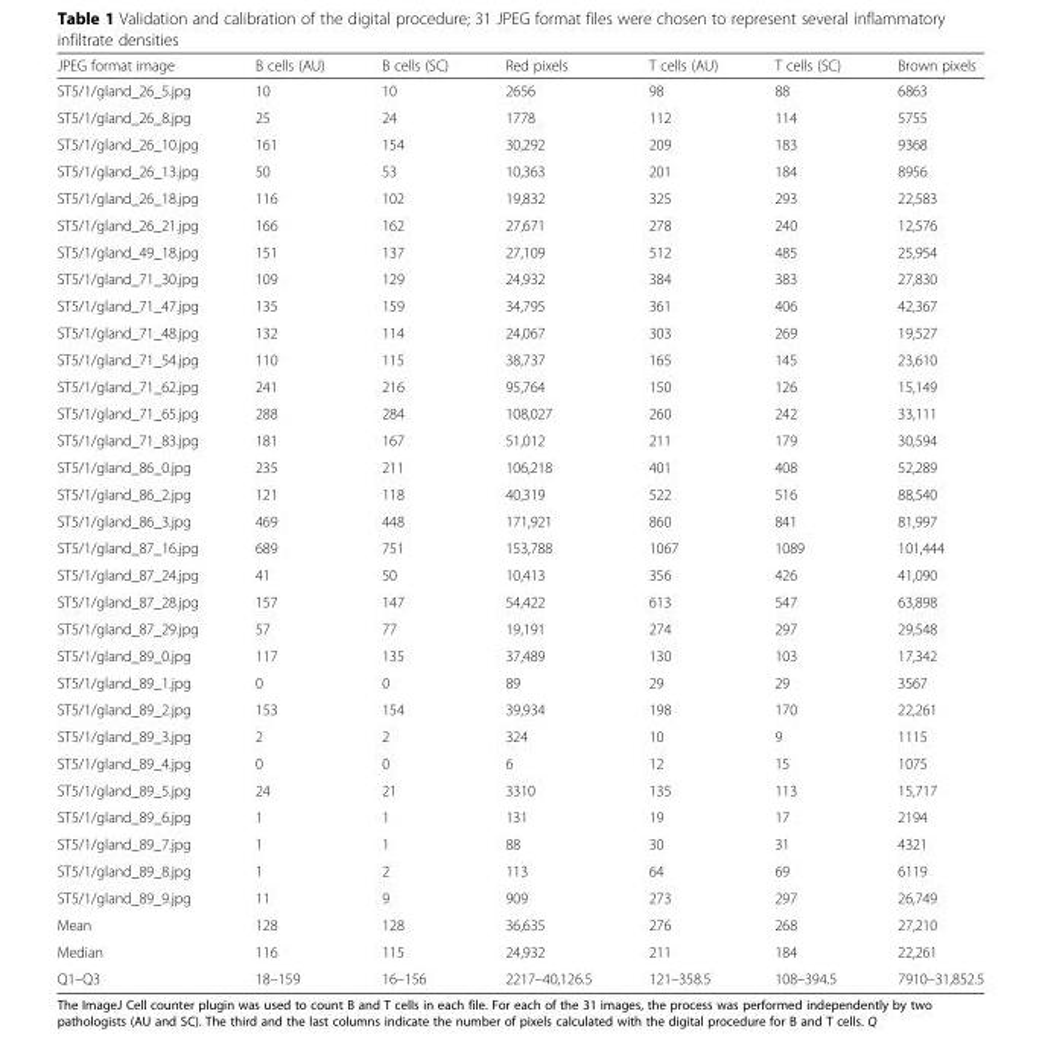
<table><thead><tr><td>JPEG format image</td><td>B cells (AU)</td><td>B cells (SC)</td><td>Red pixels</td><td>T cells (AU)</td><td>T cells (SC)</td><td>Brown pixels</td></tr></thead><tbody><tr><td>ST5/1/gland_26_5.jpg</td><td>10</td><td>10</td><td>2656</td><td>98</td><td>88</td><td>6863</td></tr><tr><td>ST5/1/gland_26_8.jpg</td><td>25</td><td>24</td><td>1778</td><td>112</td><td>114</td><td>5755</td></tr><tr><td>ST5/1/gland_26_10.jpg</td><td>161</td><td>154</td><td>30,292</td><td>209</td><td>183</td><td>9368</td></tr><tr><td>ST5/1/gland_26_13.jpg</td><td>50</td><td>53</td><td>10,363</td><td>201</td><td>184</td><td>8956</td></tr><tr><td>ST5/1/gland_26_18.jpg</td><td>116</td><td>102</td><td>19,832</td><td>325</td><td>293</td><td>22,583</td></tr><tr><td>ST5/1/gland_26_21.jpg</td><td>166</td><td>162</td><td>27,671</td><td>278</td><td>240</td><td>12,576</td></tr><tr><td>ST5/1/gland_49_18.jpg</td><td>151</td><td>137</td><td>27,109</td><td>512</td><td>485</td><td>25,954</td></tr><tr><td>ST5/1/gland_71_30.jpg</td><td>109</td><td>129</td><td>24,932</td><td>384</td><td>383</td><td>27,830</td></tr><tr><td>ST5/1/gland_71_47.jpg</td><td>135</td><td>159</td><td>34,795</td><td>361</td><td>406</td><td>42,367</td></tr><tr><td>ST5/1/gland_71_48.jpg</td><td>132</td><td>114</td><td>24,067</td><td>303</td><td>269</td><td>19,527</td></tr><tr><td>ST5/1/gland_71_54.jpg</td><td>110</td><td>115</td><td>38,737</td><td>165</td><td>145</td><td>23,610</td></tr><tr><td>ST5/1/gland_71_62.jpg</td><td>241</td><td>216</td><td>95,764</td><td>150</td><td>126</td><td>15,149</td></tr><tr><td>ST5/1/gland_71_65.jpg</td><td>288</td><td>284</td><td>108,027</td><td>260</td><td>242</td><td>33,111</td></tr><tr><td>ST5/1/gland_71_83.jpg</td><td>181</td><td>167</td><td>51,012</td><td>211</td><td>179</td><td>30,594</td></tr><tr><td>ST5/1/gland_86_0.jpg</td><td>235</td><td>211</td><td>106,218</td><td>401</td><td>408</td><td>52,289</td></tr><tr><td>ST5/1/gland_86_2.jpg</td><td>121</td><td>118</td><td>40,319</td><td>522</td><td>516</td><td>88,540</td></tr><tr><td>ST5/1/gland_86_3.jpg</td><td>469</td><td>448</td><td>171,921</td><td>860</td><td>841</td><td>81,997</td></tr><tr><td>ST5/1/gland_87_16.jpg</td><td>689</td><td>751</td><td>153,788</td><td>1067</td><td>1089</td><td>101,444</td></tr><tr><td>ST5/1/gland_87_24.jpg</td><td>41</td><td>50</td><td>10,413</td><td>356</td><td>426</td><td>41,090</td></tr><tr><td>ST5/1/gland_87_28.jpg</td><td>157</td><td>147</td><td>54,422</td><td>613</td><td>547</td><td>63,898</td></tr><tr><td>ST5/1/gland_87_29.jpg</td><td>57</td><td>77</td><td>19,191</td><td>274</td><td>297</td><td>29,548</td></tr><tr><td>ST5/1/gland_89_0.jpg</td><td>117</td><td>135</td><td>37,489</td><td>130</td><td>103</td><td>17,342</td></tr><tr><td>ST5/1/gland_89_1.jpg</td><td>0</td><td>0</td><td>89</td><td>29</td><td>29</td><td>3567</td></tr><tr><td>ST5/1/gland_89_2.jpg</td><td>153</td><td>154</td><td>39,934</td><td>198</td><td>170</td><td>22,261</td></tr><tr><td>ST5/1/gland_89_3.jpg</td><td>2</td><td>2</td><td>324</td><td>10</td><td>9</td><td>1115</td></tr><tr><td>ST5/1/gland_89_4.jpg</td><td>0</td><td>0</td><td>6</td><td>12</td><td>15</td><td>1075</td></tr><tr><td>ST5/1/gland_89_5.jpg</td><td>24</td><td>21</td><td>3310</td><td>135</td><td>113</td><td>15,717</td></tr><tr><td>ST5/1/gland_89_6.jpg</td><td>1</td><td>1</td><td>131</td><td>19</td><td>17</td><td>2194</td></tr><tr><td>ST5/1/gland_89_7.jpg</td><td>1</td><td>1</td><td>88</td><td>30</td><td>31</td><td>4321</td></tr><tr><td>ST5/1/gland_89_8.jpg</td><td>1</td><td>2</td><td>113</td><td>64</td><td>69</td><td>6119</td></tr><tr><td>ST5/1/gland_89_9.jpg</td><td>11</td><td>9</td><td>909</td><td>273</td><td>297</td><td>26,749</td></tr><tr><td>Mean</td><td>128</td><td>128</td><td>36,635</td><td>276</td><td>268</td><td>27,210</td></tr><tr><td>Median</td><td>116</td><td>115</td><td>24,932</td><td>211</td><td>184</td><td>22,261</td></tr><tr><td>Q1–Q3</td><td>18–159</td><td>16–156</td><td>2217–40,126.5</td><td>121–358.5</td><td>108–394.5</td><td>7910–31,852.5</td></tr></tbody></table>